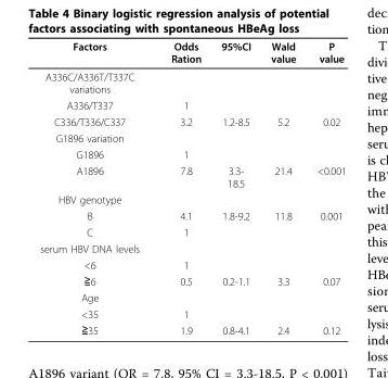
<table><thead><tr><td>Factors</td><td>Odds Ration</td><td>95%CI</td><td>Wald value</td><td>P value</td></tr></thead><tbody><tr><td colspan="5">A336C/A336T/T337C variations</td></tr><tr><td>A336/T337</td><td>1</td><td></td><td></td><td></td></tr><tr><td>C336/T336/C337</td><td>3.2</td><td>1.2-8.5</td><td>5.2</td><td>0.02</td></tr><tr><td colspan="5">G1896 variation</td></tr><tr><td>G1896</td><td>1</td><td></td><td></td><td></td></tr><tr><td>A1896</td><td>7.8</td><td>3.3- 18.5</td><td>21.4</td><td>&lt;0.001</td></tr><tr><td colspan="5">HBV genotype</td></tr><tr><td>B</td><td>4.1</td><td>1.8-9.2</td><td>11.8</td><td>0.001</td></tr><tr><td>C</td><td>1</td><td></td><td></td><td></td></tr><tr><td colspan="5">serum HBV DNA levels</td></tr><tr><td>&lt;6</td><td>1</td><td></td><td></td><td></td></tr><tr><td>≧6</td><td>0.5</td><td>0.2-1.1</td><td>3.3</td><td>0.07</td></tr><tr><td colspan="5">Age</td></tr><tr><td>&lt;35</td><td>1</td><td></td><td></td><td></td></tr><tr><td>≧35</td><td>1.9</td><td>0.8-4.1</td><td>2.4</td><td>0.12</td></tr></tbody></table>